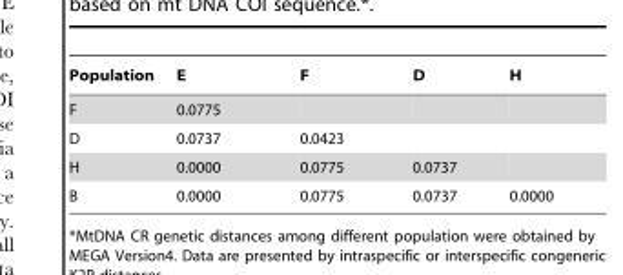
<table><thead><tr><td>Population</td><td>E</td><td>F</td><td>D</td><td>H</td></tr></thead><tbody><tr><td>F</td><td>0.0775</td><td></td><td></td><td></td></tr><tr><td>D</td><td>0.0737</td><td>0.0423</td><td></td><td></td></tr><tr><td>H</td><td>0.0000</td><td>0.0775</td><td>0.0737</td><td></td></tr><tr><td>B</td><td>0.0000</td><td>0.0775</td><td>0.0737</td><td>0.0000</td></tr></tbody></table>